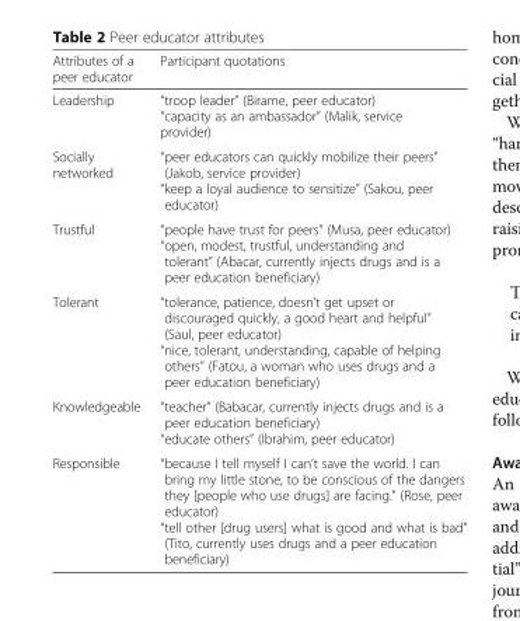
<table><thead><tr><td>Attributes of a peer educator</td><td>Participant quotations</td></tr></thead><tbody><tr><td>Leadership</td><td>“troop leader” (Birame, peer educator) “capacity as an ambassador” (Malik, service provider)</td></tr><tr><td>Socially networked</td><td>“peer educators can quickly mobilize their peers” (Jakob, service provider) “keep a loyal audience to sensitize” (Sakou, peer educator)</td></tr><tr><td>Trustful</td><td>“people have trust for peers” (Musa, peer educator) “open, modest, trustful, understanding and tolerant” (Abacar, currently injects drugs and is a peer education beneficiary)</td></tr><tr><td>Tolerant</td><td>“tolerance, patience, doesn’t get upset or discouraged quickly, a good heart and helpful” (Saul, peer educator) “nice, tolerant, understanding, capable of helping others” (Fatou, a woman who uses drugs and a peer education beneficiary)</td></tr><tr><td>Knowledgeable</td><td>“teacher” (Babacar, currently injects drugs and is a peer education beneficiary) “educate others” (Ibrahim, peer educator)</td></tr><tr><td>Responsible</td><td>“because I tell myself I can’t save the world. I can bring my little stone, to be conscious of the dangers they [people who use drugs] are facing.” (Rose, peer educator) “tell other [drug users] what is good and what is bad” (Tito, currently uses drugs and a peer education beneficiary)</td></tr></tbody></table>